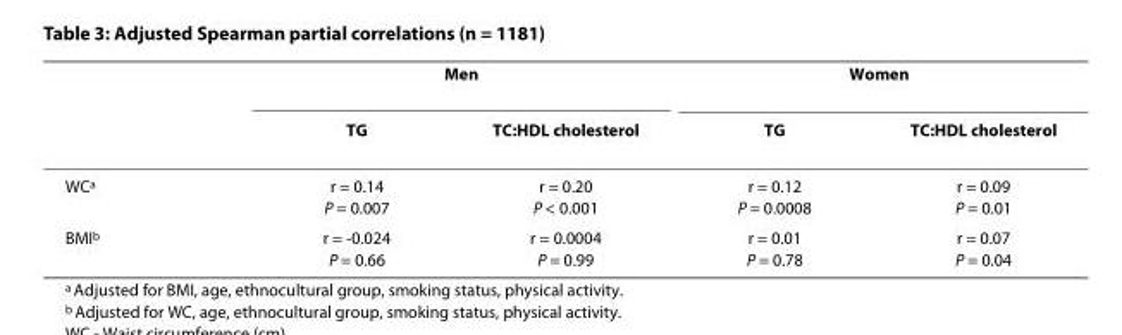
<table><thead><tr><td rowspan="2"></td><td colspan="2">Men</td><td colspan="2">Women</td></tr><tr><td>TG</td><td>TC:HDL cholesterol</td><td>TG</td><td>TC:HDL cholesterol</td></tr></thead><tbody><tr><td>WC<sup>a</sup></td><td>r = 0.14 P = 0.007</td><td>r = 0.20 P &lt; 0.001</td><td>r = 0.12 P = 0.0008</td><td>r = 0.09 P = 0.01</td></tr><tr><td>BMI<sup>b</sup></td><td>r = -0.024 P = 0.66</td><td>r = 0.0004 P = 0.99</td><td>r = 0.01 P = 0.78</td><td>r = 0.07 P = 0.04</td></tr></tbody></table>